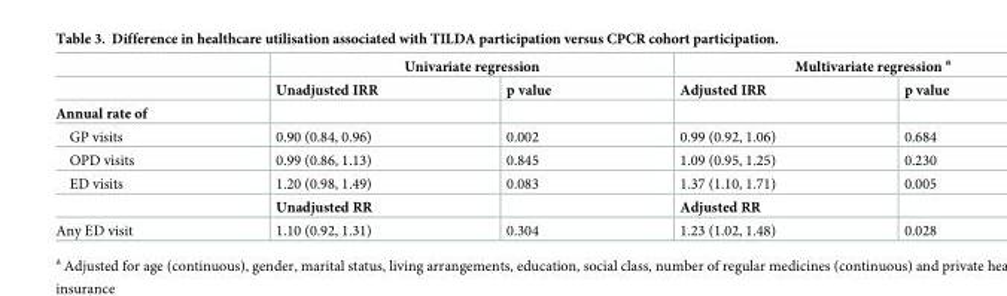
<table><thead><tr><td rowspan="2"></td><td colspan="2">Univariate regression</td><td colspan="2">Multivariate regression <sup>a</sup></td></tr><tr><td>Unadjusted IRR</td><td>p value</td><td>Adjusted IRR</td><td>p value</td></tr></thead><tbody><tr><td colspan="5">Annual rate of</td></tr><tr><td>GP visits</td><td>0.90 (0.84, 0.96)</td><td>0.002</td><td>0.99 (0.92, 1.06)</td><td>0.684</td></tr><tr><td>OPD visits</td><td>0.99 (0.86, 1.13)</td><td>0.845</td><td>1.09 (0.95, 1.25)</td><td>0.230</td></tr><tr><td rowspan="2">ED visits</td><td>1.20 (0.98, 1.49)</td><td>0.083</td><td>1.37 (1.10, 1.71)</td><td>0.005</td></tr><tr><td>Unadjusted RR</td><td></td><td>Adjusted RR</td><td></td></tr><tr><td>Any ED visit</td><td>1.10 (0.92, 1.31)</td><td>0.304</td><td>1.23 (1.02, 1.48)</td><td>0.028</td></tr></tbody></table>